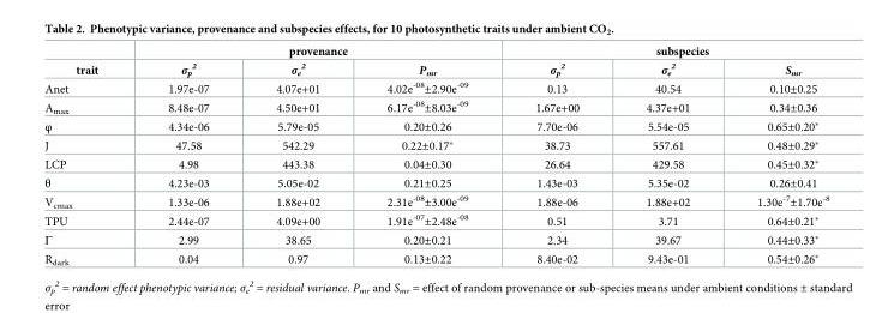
<table><thead><tr><td rowspan="2">trait</td><td colspan="3">provenance</td><td colspan="3">subspecies</td></tr><tr><td>σ<sub>p</sub> <sup>2</sup></td><td>σ<sub>e</sub> <sup>2</sup></td><td>P<sub>mr</sub></td><td>σ<sub>p</sub> <sup>2</sup></td><td>σ<sub>e</sub> <sup>2</sup></td><td>S<sub>mr</sub></td></tr></thead><tbody><tr><td>Anet</td><td>1.97e-07</td><td>4.07e+01</td><td>4.02e<sup>-08</sup>±2.90e<sup>-09</sup></td><td>0.13</td><td>40.54</td><td>0.10±0.25</td></tr><tr><td>A<sub>max</sub></td><td>8.48e-07</td><td>4.50e+01</td><td>6.17e<sup>-08</sup>±8.03e<sup>-09</sup></td><td>1.67e+00</td><td>4.37e+01</td><td>0.34±0.36</td></tr><tr><td>φ</td><td>4.34e-06</td><td>5.79e-05</td><td>0.20±0.26</td><td>7.70e-06</td><td>5.54e-05</td><td>0.65±0.20*</td></tr><tr><td>J</td><td>47.58</td><td>542.29</td><td>0.22±0.17*</td><td>38.73</td><td>557.61</td><td>0.48±0.29*</td></tr><tr><td>LCP</td><td>4.98</td><td>443.38</td><td>0.04±0.30</td><td>26.64</td><td>429.58</td><td>0.45±0.32*</td></tr><tr><td>θ</td><td>4.23e-03</td><td>5.05e-02</td><td>0.21±0.25</td><td>1.43e-03</td><td>5.35e-02</td><td>0.26±0.41</td></tr><tr><td>V<sub>cmax</sub></td><td>1.33e-06</td><td>1.88e+02</td><td>2.31e<sup>-08</sup>±3.00e<sup>-09</sup></td><td>1.88e-06</td><td>1.88e+02</td><td>1.30e<sup>-7</sup>±1.70e<sup>-8</sup></td></tr><tr><td>TPU</td><td>2.44e-07</td><td>4.09e+00</td><td>1.91e<sup>-07</sup>±2.48e<sup>-08</sup></td><td>0.51</td><td>3.71</td><td>0.64±0.21*</td></tr><tr><td>Γ</td><td>2.99</td><td>38.65</td><td>0.20±0.21</td><td>2.34</td><td>39.67</td><td>0.44±0.33*</td></tr><tr><td>R<sub>dark</sub></td><td>0.04</td><td>0.97</td><td>0.13±0.22</td><td>8.40e-02</td><td>9.43e-01</td><td>0.54±0.26*</td></tr></tbody></table>